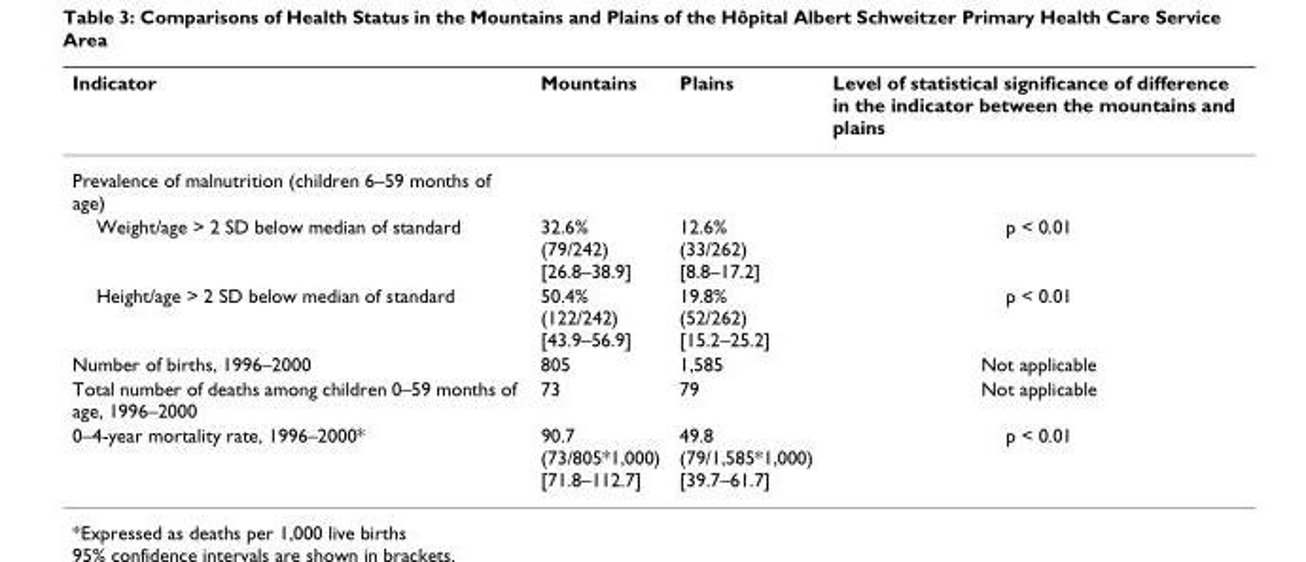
<table><thead><tr><td>Indicator</td><td>Mountains</td><td>Plains</td><td>Level of statistical significance of difference in the indicator between the mountains and plains</td></tr></thead><tbody><tr><td colspan="4">Prevalence of malnutrition (children 6–59 months of age)</td></tr><tr><td>Weight/age &gt; 2 SD below median of standard</td><td>32.6% (79/242) [26.8–38.9]</td><td>12.6% (33/262) [8.8–17.2]</td><td>p &lt; 0.01</td></tr><tr><td>Height/age &gt; 2 SD below median of standard</td><td>50.4% (122/242) [43.9–56.9]</td><td>19.8% (52/262) [15.2–25.2]</td><td>p &lt; 0.01</td></tr><tr><td>Number of births, 1996–2000</td><td>805</td><td>1,585</td><td>Not applicable</td></tr><tr><td>Total number of deaths among children 0–59 months of age, 1996–2000</td><td>73</td><td>79</td><td>Not applicable</td></tr><tr><td>0–4-year mortality rate, 1996–2000*</td><td>90.7 (73/805*1,000) [71.8–112.7]</td><td>49.8 (79/1,585*1,000) [39.7–61.7]</td><td>p &lt; 0.01</td></tr></tbody></table>